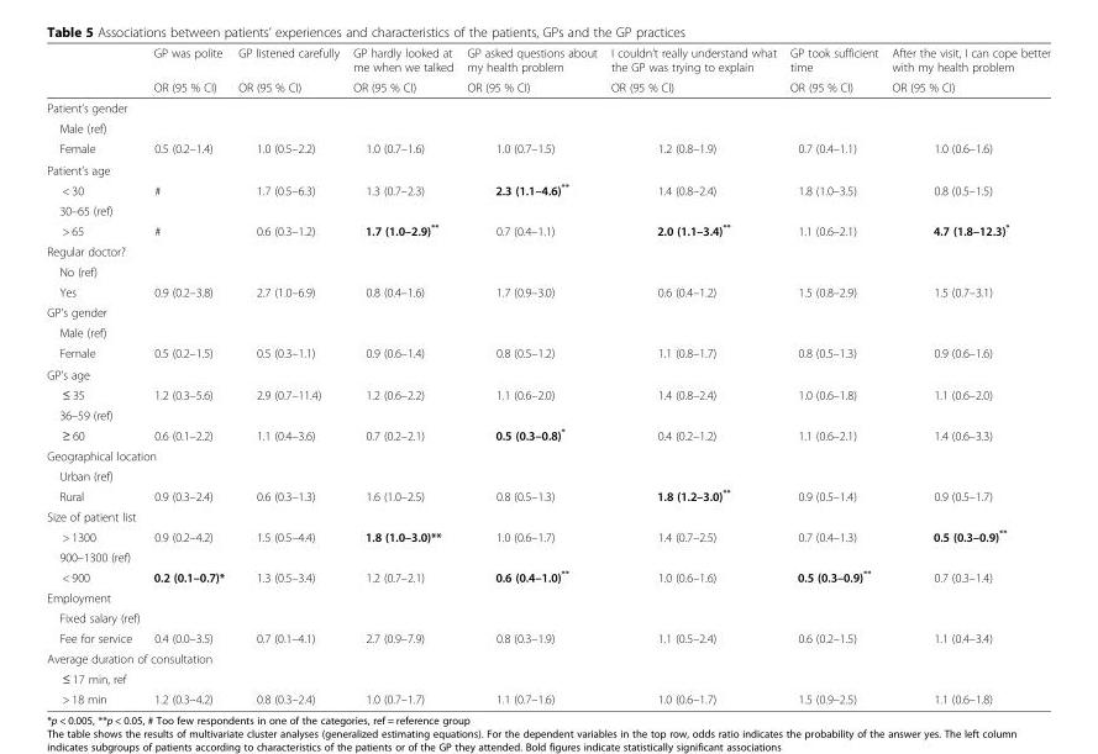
<table><thead><tr><td rowspan="2"></td><td rowspan="2">GP was polite OR (95 % CI)</td><td rowspan="2">GP listened carefully OR (95 % CI)</td><td rowspan="2">GP hardly looked at me when we talked OR (95 % CI)</td><td rowspan="2">GP asked questions about my health problem OR (95 % CI)</td><td rowspan="2">I couldn’t really understand what the GP was trying to explain OR (95 % CI)</td><td rowspan="2">GP took sufficient time OR (95 % CI)</td><td rowspan="2">After the visit, I can cope better with my health problem OR (95 % CI)</td></tr><tr></tr></thead><tbody><tr><td colspan="8">Patient’s gender</td></tr><tr><td colspan="8">Male (ref)</td></tr><tr><td>Female</td><td>0.5 (0.2–1.4)</td><td>1.0 (0.5–2.2)</td><td>1.0 (0.7–1.6)</td><td>1.0 (0.7–1.5)</td><td>1.2 (0.8–1.9)</td><td>0.7 (0.4–1.1)</td><td>1.0 (0.6–1.6)</td></tr><tr><td colspan="8">Patient’s age</td></tr><tr><td>&lt; 30</td><td>#</td><td>1.7 (0.5–6.3)</td><td>1.3 (0.7–2.3)</td><td>2.3 (1.1–4.6)**</td><td>1.4 (0.8–2.4)</td><td>1.8 (1.0–3.5)</td><td>0.8 (0.5–1.5)</td></tr><tr><td colspan="8">30–65 (ref)</td></tr><tr><td>&gt; 65</td><td>#</td><td>0.6 (0.3–1.2)</td><td>1.7 (1.0–2.9)**</td><td>0.7 (0.4–1.1)</td><td>2.0 (1.1–3.4)**</td><td>1.1 (0.6–2.1)</td><td>4.7 (1.8–12.3)*</td></tr><tr><td colspan="8">Regular doctor?</td></tr><tr><td colspan="8">No (ref)</td></tr><tr><td>Yes</td><td>0.9 (0.2–3.8)</td><td>2.7 (1.0–6.9)</td><td>0.8 (0.4–1.6)</td><td>1.7 (0.9–3.0)</td><td>0.6 (0.4–1.2)</td><td>1.5 (0.8–2.9)</td><td>1.5 (0.7–3.1)</td></tr><tr><td colspan="8">GP’s gender</td></tr><tr><td colspan="8">Male (ref)</td></tr><tr><td>Female</td><td>0.5 (0.2–1.5)</td><td>0.5 (0.3–1.1)</td><td>0.9 (0.6–1.4)</td><td>0.8 (0.5–1.2)</td><td>1.1 (0.8–1.7)</td><td>0.8 (0.5–1.3)</td><td>0.9 (0.6–1.6)</td></tr><tr><td colspan="8">GP’s age</td></tr><tr><td>≤ 35</td><td>1.2 (0.3–5.6)</td><td>2.9 (0.7–11.4)</td><td>1.2 (0.6–2.2)</td><td>1.1 (0.6–2.0)</td><td>1.4 (0.8–2.4)</td><td>1.0 (0.6–1.8)</td><td>1.1 (0.6–2.0)</td></tr><tr><td colspan="8">36–59 (ref)</td></tr><tr><td>≥ 60</td><td>0.6 (0.1–2.2)</td><td>1.1 (0.4–3.6)</td><td>0.7 (0.2–2.1)</td><td>0.5 (0.3–0.8)*</td><td>0.4 (0.2–1.2)</td><td>1.1 (0.6–2.1)</td><td>1.4 (0.6–3.3)</td></tr><tr><td colspan="8">Geographical location</td></tr><tr><td colspan="8">Urban (ref)</td></tr><tr><td>Rural</td><td>0.9 (0.3–2.4)</td><td>0.6 (0.3–1.3)</td><td>1.6 (1.0–2.5)</td><td>0.8 (0.5–1.3)</td><td>1.8 (1.2–3.0)**</td><td>0.9 (0.5–1.4)</td><td>0.9 (0.5–1.7)</td></tr><tr><td colspan="8">Size of patient list</td></tr><tr><td>&gt; 1300</td><td>0.9 (0.2–4.2)</td><td>1.5 (0.5–4.4)</td><td>1.8 (1.0–3.0)**</td><td>1.0 (0.6–1.7)</td><td>1.4 (0.7–2.5)</td><td>0.7 (0.4–1.3)</td><td>0.5 (0.3–0.9)**</td></tr><tr><td colspan="8">900–1300 (ref)</td></tr><tr><td>&lt; 900</td><td>0.2 (0.1–0.7)*</td><td>1.3 (0.5–3.4)</td><td>1.2 (0.7–2.1)</td><td>0.6 (0.4–1.0)**</td><td>1.0 (0.6–1.6)</td><td>0.5 (0.3–0.9)**</td><td>0.7 (0.3–1.4)</td></tr><tr><td colspan="8">Employment</td></tr><tr><td colspan="8">Fixed salary (ref)</td></tr><tr><td>Fee for service</td><td>0.4 (0.0–3.5)</td><td>0.7 (0.1–4.1)</td><td>2.7 (0.9–7.9)</td><td>0.8 (0.3–1.9)</td><td>1.1 (0.5–2.4)</td><td>0.6 (0.2–1.5)</td><td>1.1 (0.4–3.4)</td></tr><tr><td colspan="8">Average duration of consultation</td></tr><tr><td colspan="8">≤ 17 min, ref</td></tr><tr><td>&gt; 18 min</td><td>1.2 (0.3–4.2)</td><td>0.8 (0.3–2.4)</td><td>1.0 (0.7–1.7)</td><td>1.1 (0.7–1.6)</td><td>1.0 (0.6–1.7)</td><td>1.5 (0.9–2.5)</td><td>1.1 (0.6–1.8)</td></tr></tbody></table>